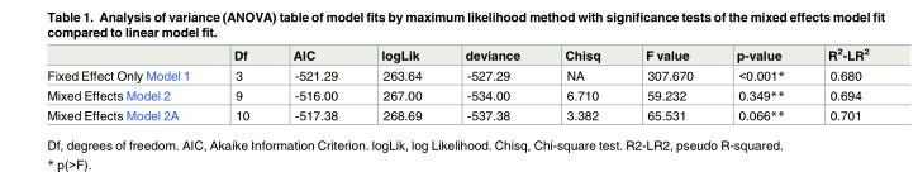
<table><thead><tr><td></td><td>Df</td><td>AIC</td><td>logLik</td><td>deviance</td><td>Chisq</td><td>F value</td><td>p-value</td><td>R<sup>2</sup>-LR<sup>2</sup></td></tr></thead><tbody><tr><td>Fixed Effect Only Model 1</td><td>3</td><td>-521.29</td><td>263.64</td><td>-527.29</td><td>NA</td><td>307.670</td><td>&lt;0.001*</td><td>0.680</td></tr><tr><td>Mixed Effects Model 2</td><td>9</td><td>-516.00</td><td>267.00</td><td>-534.00</td><td>6.710</td><td>59.232</td><td>0.349**</td><td>0.694</td></tr><tr><td>Mixed Effects Model 2A</td><td>10</td><td>-517.38</td><td>268.69</td><td>-537.38</td><td>3.382</td><td>65.531</td><td>0.066**</td><td>0.701</td></tr></tbody></table>